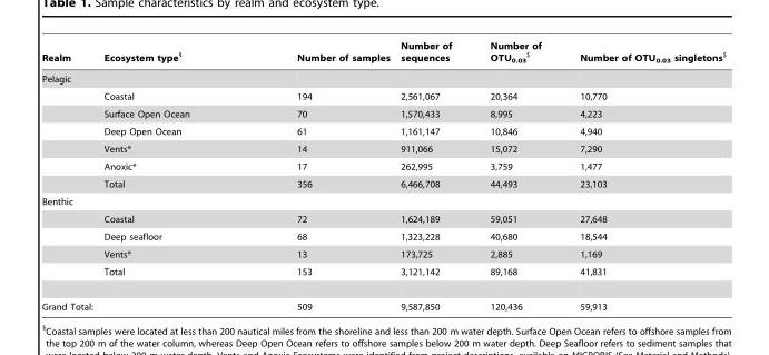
<table><thead><tr><td>Realm</td><td>Ecosystem type§</td><td>Number of samples</td><td>Number of sequences</td><td>Number of OTU<sub>0.03</sub> $</td><td>Number of OTU<sub>0.03</sub> singletons$</td></tr></thead><tbody><tr><td colspan="6">Pelagic</td></tr><tr><td></td><td>Coastal</td><td>194</td><td>2,561,067</td><td>20,364</td><td>10,770</td></tr><tr><td></td><td>Surface Open Ocean</td><td>70</td><td>1,570,433</td><td>8,995</td><td>4,223</td></tr><tr><td></td><td>Deep Open Ocean</td><td>61</td><td>1,161,147</td><td>10,846</td><td>4,940</td></tr><tr><td></td><td>Vents*</td><td>14</td><td>911,066</td><td>15,072</td><td>7,290</td></tr><tr><td></td><td>Anoxic*</td><td>17</td><td>262,995</td><td>3,759</td><td>1,477</td></tr><tr><td></td><td>Total</td><td>356</td><td>6,466,708</td><td>44,493</td><td>23,103</td></tr><tr><td colspan="6">Benthic</td></tr><tr><td></td><td>Coastal</td><td>72</td><td>1,624,189</td><td>59,051</td><td>27,648</td></tr><tr><td></td><td>Deep seafloor</td><td>68</td><td>1,323,228</td><td>40,680</td><td>18,544</td></tr><tr><td></td><td>Vents*</td><td>13</td><td>173,725</td><td>2,885</td><td>1,169</td></tr><tr><td></td><td>Total</td><td>153</td><td>3,121,142</td><td>89,168</td><td>41,831</td></tr><tr><td colspan="2">Grand Total:</td><td>509</td><td>9,587,850</td><td>120,436</td><td>59,913</td></tr></tbody></table>